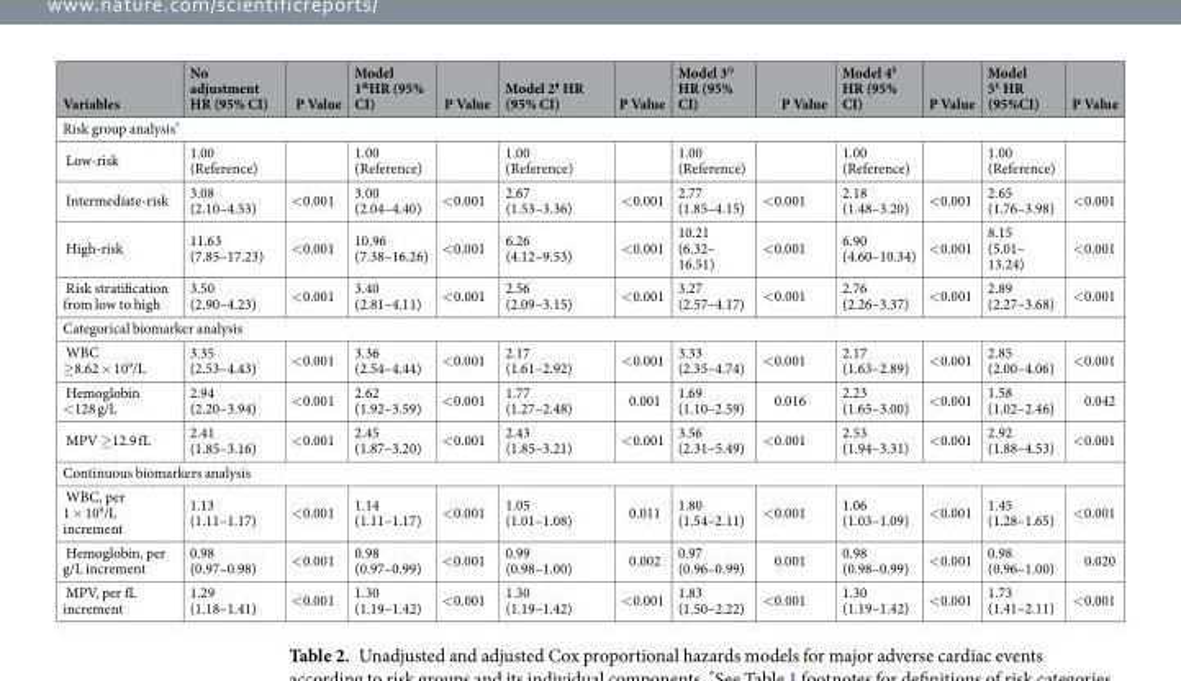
<table><thead><tr><td>Variables</td><td>No adjustment HR (95% CI)</td><td>P Value</td><td>Model 1<sup>&amp;</sup>HR (95% CI)</td><td>P Value</td><td>Model 2<sup>¶</sup> HR (95% CI)</td><td>P Value</td><td>Model 3<sup>φ</sup> HR (95% CI)</td><td>P Value</td><td>Model 4<sup>§</sup> HR (95% CI)</td><td>P Value</td><td>Model 5<sup>£</sup> HR (95%CI)</td><td>P Value</td></tr></thead><tbody><tr><td colspan="13">Risk group analysis*</td></tr><tr><td>Low-risk</td><td>1.00 (Reference)</td><td></td><td>1.00 (Reference)</td><td></td><td>1.00 (Reference)</td><td></td><td>1.00 (Reference)</td><td></td><td>1.00 (Reference)</td><td></td><td>1.00 (Reference)</td><td></td></tr><tr><td>Intermediate-risk</td><td>3.08 (2.10–4.53)</td><td>&lt;0.001</td><td>3.00 (2.04–4.40)</td><td>&lt;0.001</td><td>2.67 (1.53–3.36)</td><td>&lt;0.001</td><td>2.77 (1.85–4.15)</td><td>&lt;0.001</td><td>2.18 (1.48–3.20)</td><td>&lt;0.001</td><td>2.65 (1.76–3.98)</td><td>&lt;0.001</td></tr><tr><td>High-risk</td><td>11.63 (7.85–17.23)</td><td>&lt;0.001</td><td>10.96 (7.38–16.26)</td><td>&lt;0.001</td><td>6.26 (4.12–9.53)</td><td>&lt;0.001</td><td>10.21 (6.32– 16.51)</td><td>&lt;0.001</td><td>6.90 (4.60–10.34)</td><td>&lt;0.001</td><td>8.15 (5.01– 13.24)</td><td>&lt;0.001</td></tr><tr><td>Risk stratification from low to high</td><td>3.50 (2.90–4.23)</td><td>&lt;0.001</td><td>3.40 (2.81–4.11)</td><td>&lt;0.001</td><td>2.56 (2.09–3.15)</td><td>&lt;0.001</td><td>3.27 (2.57–4.17)</td><td>&lt;0.001</td><td>2.76 (2.26–3.37)</td><td>&lt;0.001</td><td>2.89 (2.27–3.68)</td><td>&lt;0.001</td></tr><tr><td colspan="13">Categorical biomarker analysis</td></tr><tr><td>WBC ≥8.62 × 10<sup>9</sup>/L</td><td>3.35 (2.53–4.43)</td><td>&lt;0.001</td><td>3.36 (2.54–4.44)</td><td>&lt;0.001</td><td>2.17 (1.61–2.92)</td><td>&lt;0.001</td><td>3.33 (2.35–4.74)</td><td>&lt;0.001</td><td>2.17 (1.63–2.89)</td><td>&lt;0.001</td><td>2.85 (2.00–4.06)</td><td>&lt;0.001</td></tr><tr><td>Hemoglobin &lt;128 g/L</td><td>2.94 (2.20–3.94)</td><td>&lt;0.001</td><td>2.62 (1.92–3.59)</td><td>&lt;0.001</td><td>1.77 (1.27–2.48)</td><td>0.001</td><td>1.69 (1.10–2.59)</td><td>0.016</td><td>2.23 (1.65–3.00)</td><td>&lt;0.001</td><td>1.58 (1.02–2.46)</td><td>0.042</td></tr><tr><td>MPV ≥12.9 fL</td><td>2.41 (1.85–3.16)</td><td>&lt;0.001</td><td>2.45 (1.87–3.20)</td><td>&lt;0.001</td><td>2.43 (1.85–3.21)</td><td>&lt;0.001</td><td>3.56 (2.31–5.49)</td><td>&lt;0.001</td><td>2.53 (1.94–3.31)</td><td>&lt;0.001</td><td>2.92 (1.88–4.53)</td><td>&lt;0.001</td></tr><tr><td colspan="13">Continuous biomarkers analysis</td></tr><tr><td>WBC, per 1 × 10<sup>9</sup>/L increment</td><td>1.13 (1.11–1.17)</td><td>&lt;0.001</td><td>1.14 (1.11–1.17)</td><td>&lt;0.001</td><td>1.05 (1.01–1.08)</td><td>0.011</td><td>1.80 (1.54–2.11)</td><td>&lt;0.001</td><td>1.06 (1.03–1.09)</td><td>&lt;0.001</td><td>1.45 (1.28–1.65)</td><td>&lt;0.001</td></tr><tr><td>Hemoglobin, per g/L increment</td><td>0.98 (0.97–0.98)</td><td>&lt;0.001</td><td>0.98 (0.97–0.99)</td><td>&lt;0.001</td><td>0.99 (0.98–1.00)</td><td>0.002</td><td>0.97 (0.96–0.99)</td><td>0.001</td><td>0.98 (0.98–0.99)</td><td>&lt;0.001</td><td>0.98 (0.96–1.00)</td><td>0.020</td></tr><tr><td>MPV, per fL increment</td><td>1.29 (1.18–1.41)</td><td>&lt;0.001</td><td>1.30 (1.19–1.42)</td><td>&lt;0.001</td><td>1.30 (1.19–1.42)</td><td>&lt;0.001</td><td>1.83 (1.50–2.22)</td><td>&lt;0.001</td><td>1.30 (1.19–1.42)</td><td>&lt;0.001</td><td>1.73 (1.41–2.11)</td><td>&lt;0.001</td></tr></tbody></table>